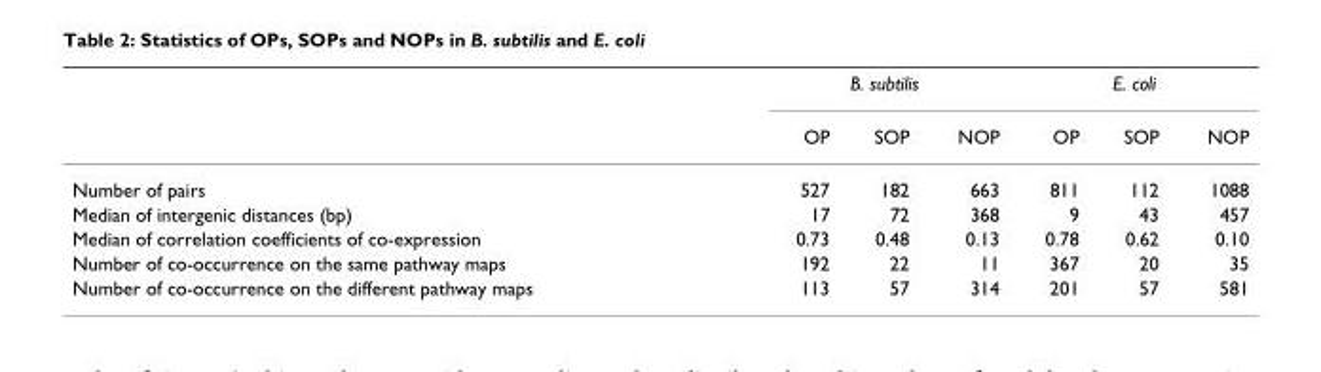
<table><thead><tr><td rowspan="2"></td><td colspan="3">B. subtilis</td><td colspan="3">E. coli</td></tr><tr><td>OP</td><td>SOP</td><td>NOP</td><td>OP</td><td>SOP</td><td>NOP</td></tr></thead><tbody><tr><td>Number of pairs</td><td>527</td><td>182</td><td>663</td><td>811</td><td>112</td><td>1088</td></tr><tr><td>Median of intergenic distances (bp)</td><td>17</td><td>72</td><td>368</td><td>9</td><td>43</td><td>457</td></tr><tr><td>Median of correlation coefficients of co-expression</td><td>0.73</td><td>0.48</td><td>0.13</td><td>0.78</td><td>0.62</td><td>0.10</td></tr><tr><td>Number of co-occurrence on the same pathway maps</td><td>192</td><td>22</td><td>11</td><td>367</td><td>20</td><td>35</td></tr><tr><td>Number of co-occurrence on the different pathway maps</td><td>113</td><td>57</td><td>314</td><td>201</td><td>57</td><td>581</td></tr></tbody></table>